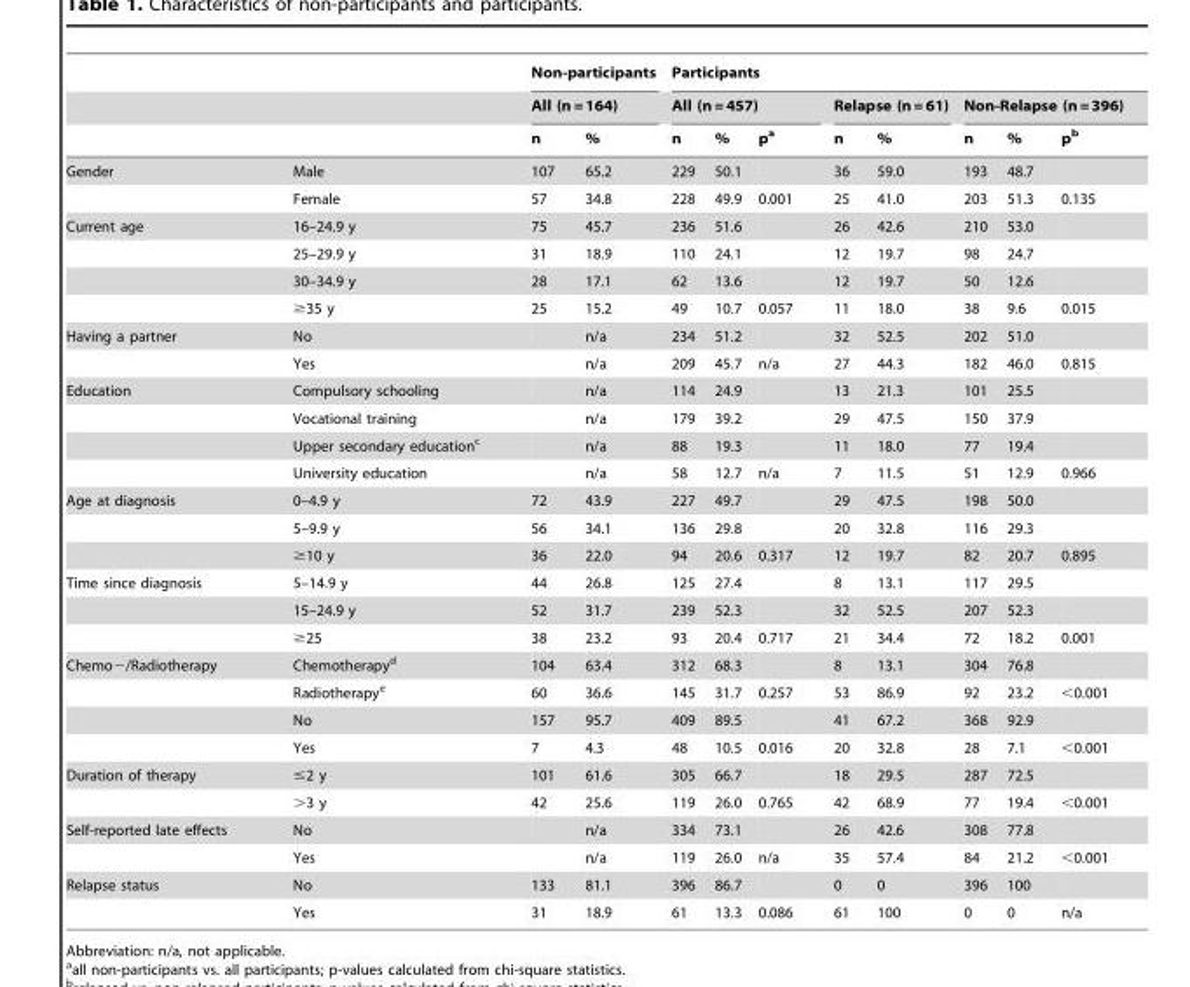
<table><thead><tr><td rowspan="3"></td><td rowspan="3"></td><td rowspan="2" colspan="2">Non-participants All (n = 164)</td><td colspan="8">Participants</td></tr><tr><td colspan="3">All (n = 457)</td><td colspan="2">Relapse (n = 61)</td><td colspan="3">Non-Relapse (n = 396)</td></tr><tr><td>n</td><td>%</td><td>n</td><td>%</td><td>p<sup>a</sup></td><td>n</td><td>%</td><td>n</td><td>%</td><td>p<sup>b</sup></td></tr></thead><tbody><tr><td rowspan="2">Gender</td><td>Male</td><td>107</td><td>65.2</td><td>229</td><td>50.1</td><td></td><td>36</td><td>59.0</td><td>193</td><td>48.7</td><td></td></tr><tr><td>Female</td><td>57</td><td>34.8</td><td>228</td><td>49.9</td><td>0.001</td><td>25</td><td>41.0</td><td>203</td><td>51.3</td><td>0.135</td></tr><tr><td rowspan="4">Current age</td><td>16–24.9 y</td><td>75</td><td>45.7</td><td>236</td><td>51.6</td><td></td><td>26</td><td>42.6</td><td>210</td><td>53.0</td><td></td></tr><tr><td>25–29.9 y</td><td>31</td><td>18.9</td><td>110</td><td>24.1</td><td></td><td>12</td><td>19.7</td><td>98</td><td>24.7</td><td></td></tr><tr><td>30–34.9 y</td><td>28</td><td>17.1</td><td>62</td><td>13.6</td><td></td><td>12</td><td>19.7</td><td>50</td><td>12.6</td><td></td></tr><tr><td>≥35 y</td><td>25</td><td>15.2</td><td>49</td><td>10.7</td><td>0.057</td><td>11</td><td>18.0</td><td>38</td><td>9.6</td><td>0.015</td></tr><tr><td rowspan="2">Having a partner</td><td>No</td><td></td><td>n/a</td><td>234</td><td>51.2</td><td></td><td>32</td><td>52.5</td><td>202</td><td>51.0</td><td></td></tr><tr><td>Yes</td><td></td><td>n/a</td><td>209</td><td>45.7</td><td>n/a</td><td>27</td><td>44.3</td><td>182</td><td>46.0</td><td>0.815</td></tr><tr><td rowspan="4">Education</td><td>Compulsory schooling</td><td></td><td>n/a</td><td>114</td><td>24.9</td><td></td><td>13</td><td>21.3</td><td>101</td><td>25.5</td><td></td></tr><tr><td>Vocational training</td><td></td><td>n/a</td><td>179</td><td>39.2</td><td></td><td>29</td><td>47.5</td><td>150</td><td>37.9</td><td></td></tr><tr><td>Upper secondary education<sup>c</sup></td><td></td><td>n/a</td><td>88</td><td>19.3</td><td></td><td>11</td><td>18.0</td><td>77</td><td>19.4</td><td></td></tr><tr><td>University education</td><td></td><td>n/a</td><td>58</td><td>12.7</td><td>n/a</td><td>7</td><td>11.5</td><td>51</td><td>12.9</td><td>0.966</td></tr><tr><td rowspan="3">Age at diagnosis</td><td>0–4.9 y</td><td>72</td><td>43.9</td><td>227</td><td>49.7</td><td></td><td>29</td><td>47.5</td><td>198</td><td>50.0</td><td></td></tr><tr><td>5–9.9 y</td><td>56</td><td>34.1</td><td>136</td><td>29.8</td><td></td><td>20</td><td>32.8</td><td>116</td><td>29.3</td><td></td></tr><tr><td>≥10 y</td><td>36</td><td>22.0</td><td>94</td><td>20.6</td><td>0.317</td><td>12</td><td>19.7</td><td>82</td><td>20.7</td><td>0.895</td></tr><tr><td rowspan="3">Time since diagnosis</td><td>5–14.9 y</td><td>44</td><td>26.8</td><td>125</td><td>27.4</td><td></td><td>8</td><td>13.1</td><td>117</td><td>29.5</td><td></td></tr><tr><td>15–24.9 y</td><td>52</td><td>31.7</td><td>239</td><td>52.3</td><td></td><td>32</td><td>52.5</td><td>207</td><td>52.3</td><td></td></tr><tr><td>≥25</td><td>38</td><td>23.2</td><td>93</td><td>20.4</td><td>0.717</td><td>21</td><td>34.4</td><td>72</td><td>18.2</td><td>0.001</td></tr><tr><td rowspan="4">Chemo−/Radiotherapy</td><td>Chemotherapy<sup>d</sup></td><td>104</td><td>63.4</td><td>312</td><td>68.3</td><td></td><td>8</td><td>13.1</td><td>304</td><td>76.8</td><td></td></tr><tr><td>Radiotherapy<sup>e</sup></td><td>60</td><td>36.6</td><td>145</td><td>31.7</td><td>0.257</td><td>53</td><td>86.9</td><td>92</td><td>23.2</td><td>&lt;0.001</td></tr><tr><td>No</td><td>157</td><td>95.7</td><td>409</td><td>89.5</td><td></td><td>41</td><td>67.2</td><td>368</td><td>92.9</td><td></td></tr><tr><td>Yes</td><td>7</td><td>4.3</td><td>48</td><td>10.5</td><td>0.016</td><td>20</td><td>32.8</td><td>28</td><td>7.1</td><td>&lt;0.001</td></tr><tr><td rowspan="2">Duration of therapy</td><td>≤2 y</td><td>101</td><td>61.6</td><td>305</td><td>66.7</td><td></td><td>18</td><td>29.5</td><td>287</td><td>72.5</td><td></td></tr><tr><td>&gt;3 y</td><td>42</td><td>25.6</td><td>119</td><td>26.0</td><td>0.765</td><td>42</td><td>68.9</td><td>77</td><td>19.4</td><td>&lt;0.001</td></tr><tr><td rowspan="2">Self-reported late effects</td><td>No</td><td></td><td>n/a</td><td>334</td><td>73.1</td><td></td><td>26</td><td>42.6</td><td>308</td><td>77.8</td><td></td></tr><tr><td>Yes</td><td></td><td>n/a</td><td>119</td><td>26.0</td><td>n/a</td><td>35</td><td>57.4</td><td>84</td><td>21.2</td><td>&lt;0.001</td></tr><tr><td rowspan="2">Relapse status</td><td>No</td><td>133</td><td>81.1</td><td>396</td><td>86.7</td><td></td><td>0</td><td>0</td><td>396</td><td>100</td><td></td></tr><tr><td>Yes</td><td>31</td><td>18.9</td><td>61</td><td>13.3</td><td>0.086</td><td>61</td><td>100</td><td>0</td><td>0</td><td>n/a</td></tr></tbody></table>